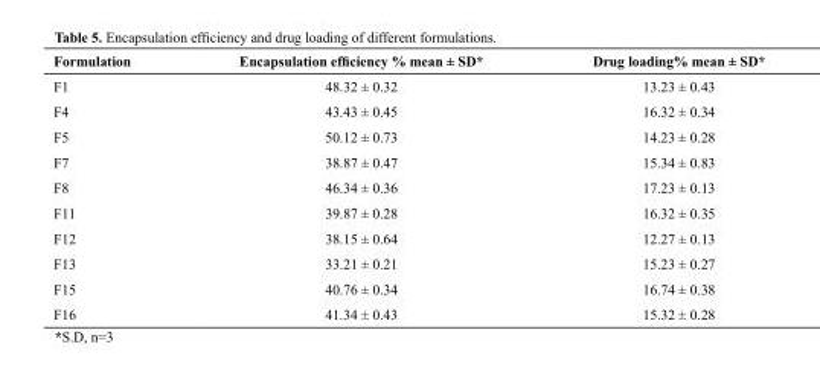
<table><thead><tr><td>Formulation</td><td>Encapsulation efficiency % mean ± SD*</td><td>Drug loading% mean ± SD*</td></tr></thead><tbody><tr><td>F1</td><td>48.32 ± 0.32</td><td>13.23 ± 0.43</td></tr><tr><td>F4</td><td>43.43 ± 0.45</td><td>16.32 ± 0.34</td></tr><tr><td>F5</td><td>50.12 ± 0.73</td><td>14.23 ± 0.28</td></tr><tr><td>F7</td><td>38.87 ± 0.47</td><td>15.34 ± 0.83</td></tr><tr><td>F8</td><td>46.34 ± 0.36</td><td>17.23 ± 0.13</td></tr><tr><td>F11</td><td>39.87 ± 0.28</td><td>16.32 ± 0.35</td></tr><tr><td>F12</td><td>38.15 ± 0.64</td><td>12.27 ± 0.13</td></tr><tr><td>F13</td><td>33.21 ± 0.21</td><td>15.23 ± 0.27</td></tr><tr><td>F15</td><td>40.76 ± 0.34</td><td>16.74 ± 0.38</td></tr><tr><td>F16</td><td>41.34 ± 0.43</td><td>15.32 ± 0.28</td></tr></tbody></table>